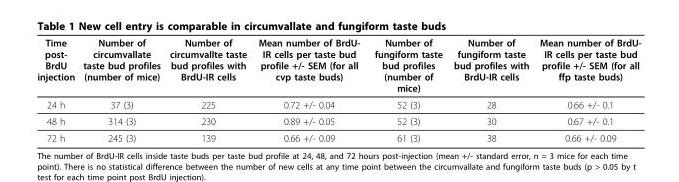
<table><thead><tr><td>Time post- BrdU injection</td><td>Number of circumvallate taste bud profiles (number of mice)</td><td>Number of circumvallte taste bud profiles with BrdU-IR cells</td><td>Mean number of BrdU- IR cells per taste bud profile +/- SEM (for all cvp taste buds)</td><td>Number of fungiform taste bud profiles (number of mice)</td><td>Number of fungiform taste bud profiles with BrdU-IR cells</td><td>Mean number of BrdU- IR cells per taste bud profile +/- SEM (for all ffp taste buds)</td></tr></thead><tbody><tr><td>24 h</td><td>37 (3)</td><td>225</td><td>0.72 +/- 0.04</td><td>52 (3)</td><td>28</td><td>0.66 +/- 0.1</td></tr><tr><td>48 h</td><td>314 (3)</td><td>230</td><td>0.89 +/- 0.05</td><td>52 (3)</td><td>30</td><td>0.67 +/- 0.1</td></tr><tr><td>72 h</td><td>245 (3)</td><td>139</td><td>0.66 +/- 0.09</td><td>61 (3)</td><td>38</td><td>0.66 +/- 0.09</td></tr></tbody></table>